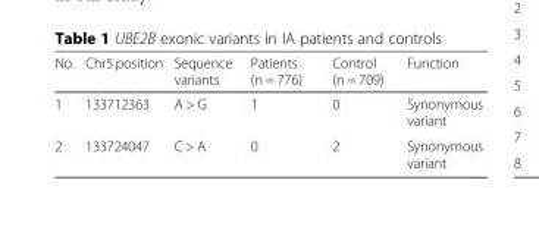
<table><thead><tr><td>No.</td><td>Chr5.position</td><td>Sequence variants</td><td>Patients (n = 776)</td><td>Control (n = 709)</td><td>Function</td></tr></thead><tbody><tr><td>1</td><td>133712363</td><td>A &gt; G</td><td>1</td><td>0</td><td>Synonymous variant</td></tr><tr><td>2</td><td>133724047</td><td>C &gt; A</td><td>0</td><td>2</td><td>Synonymous variant</td></tr></tbody></table>